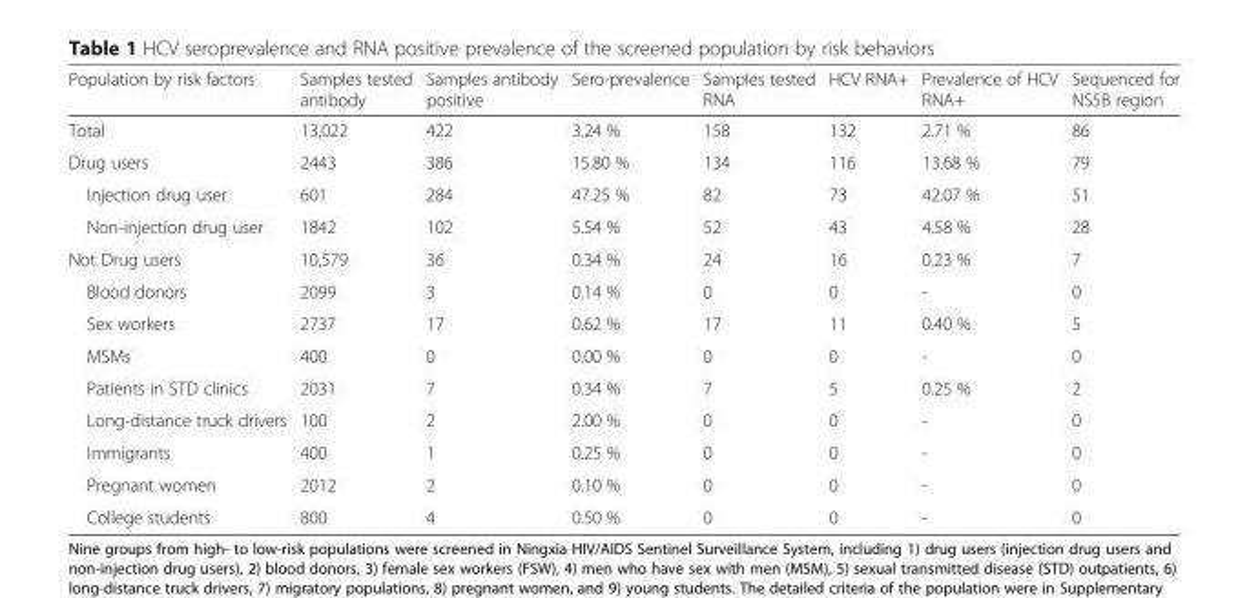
<table><thead><tr><td>Population by risk factors</td><td>Samples tested antibody</td><td>Samples antibody positive</td><td>Sero-prevalence</td><td>Samples tested RNA</td><td>HCV RNA+</td><td>Prevalence of HCV RNA+</td><td>Sequenced for NS5B region</td></tr></thead><tbody><tr><td>Total</td><td>13,022</td><td>422</td><td>3.24 %</td><td>158</td><td>132</td><td>2.71 %</td><td>86</td></tr><tr><td>Drug users</td><td>2443</td><td>386</td><td>15.80 %</td><td>134</td><td>116</td><td>13.68 %</td><td>79</td></tr><tr><td>Injection drug user</td><td>601</td><td>284</td><td>47.25 %</td><td>82</td><td>73</td><td>42.07 %</td><td>51</td></tr><tr><td>Non-injection drug user</td><td>1842</td><td>102</td><td>5.54 %</td><td>52</td><td>43</td><td>4.58 %</td><td>28</td></tr><tr><td>Not Drug users</td><td>10,579</td><td>36</td><td>0.34 %</td><td>24</td><td>16</td><td>0.23 %</td><td>7</td></tr><tr><td>Blood donors</td><td>2099</td><td>3</td><td>0.14 %</td><td>0</td><td>0</td><td>-</td><td>0</td></tr><tr><td>Sex workers</td><td>2737</td><td>17</td><td>0.62 %</td><td>17</td><td>11</td><td>0.40 %</td><td>5</td></tr><tr><td>MSMs</td><td>400</td><td>0</td><td>0.00 %</td><td>0</td><td>0</td><td>-</td><td>0</td></tr><tr><td>Patients in STD clinics</td><td>2031</td><td>7</td><td>0.34 %</td><td>7</td><td>5</td><td>0.25 %</td><td>2</td></tr><tr><td>Long-distance truck drivers</td><td>100</td><td>2</td><td>2.00 %</td><td>0</td><td>0</td><td>-</td><td>0</td></tr><tr><td>Immigrants</td><td>400</td><td>1</td><td>0.25 %</td><td>0</td><td>0</td><td>-</td><td>0</td></tr><tr><td>Pregnant women</td><td>2012</td><td>2</td><td>0.10 %</td><td>0</td><td>0</td><td>-</td><td>0</td></tr><tr><td>College students</td><td>800</td><td>4</td><td>0.50 %</td><td>0</td><td>0</td><td>-</td><td>0</td></tr></tbody></table>